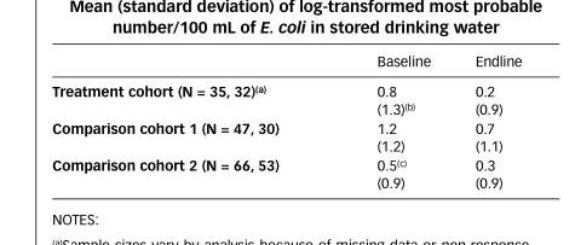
<table><thead><tr><td></td><td>Baseline</td><td>Endline</td></tr></thead><tbody><tr><td>treatment cohort (n = 35, 32)<sup>(a)</sup></td><td>0.8 (1.3)<sup>(b)</sup></td><td>0.2 (0.9)</td></tr><tr><td>Comparison cohort 1 (n = 47, 30)</td><td>1.2 (1.2)</td><td>0.7 (1.1)</td></tr><tr><td>Comparison cohort 2 (n = 66, 53)</td><td>0.5<sup>(c)</sup> (0.9)</td><td>0.3 (0.9)</td></tr></tbody></table>